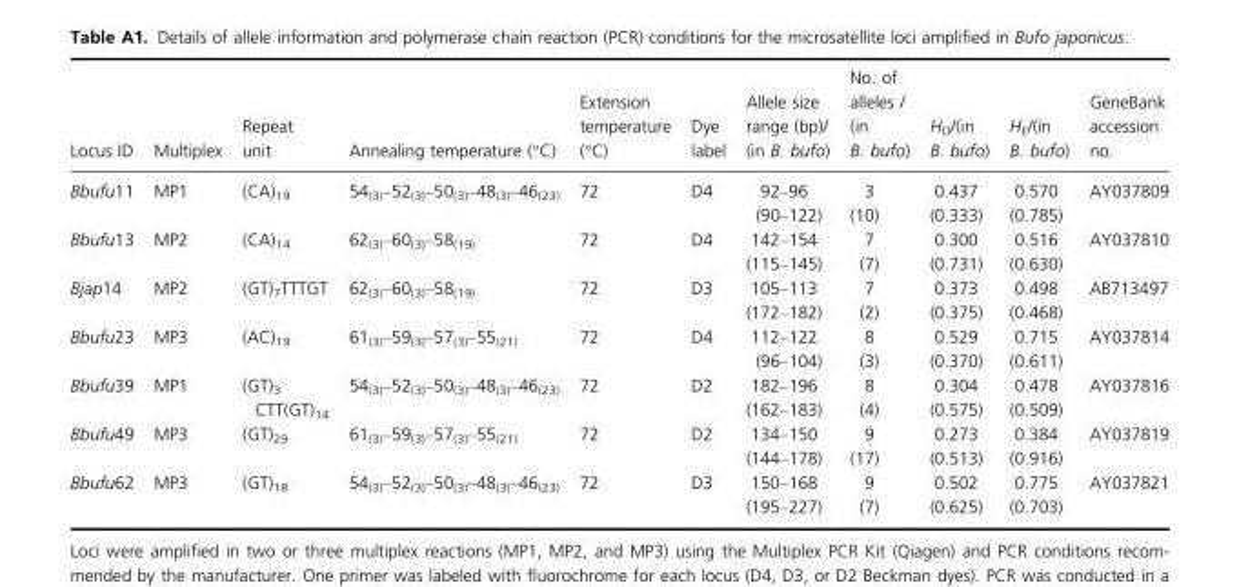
<table><thead><tr><td>Locus ID</td><td>Multiplex</td><td>Repeat unit</td><td>Annealing temperature (°C)</td><td>Extension temperature (°C)</td><td>Dye label</td><td>Allele size range (bp)/ (in B. bufo)</td><td>No. of alleles / (in B. bufo)</td><td>H<sub>O</sub>/(in B. bufo)</td><td>H<sub>E</sub>/(in B. bufo)</td><td>GeneBank accession no.</td></tr></thead><tbody><tr><td rowspan="2">Bbufu11</td><td rowspan="2">MP1</td><td rowspan="2">(CA)<sub>19</sub></td><td rowspan="2">54<sub>(3)</sub>–52<sub>(3)</sub>–50<sub>(3)</sub>–48<sub>(3)</sub>–46<sub>(23)</sub></td><td rowspan="2">72</td><td rowspan="2">D4</td><td>92–96</td><td>3</td><td>0.437</td><td>0.570</td><td rowspan="2">AY037809</td></tr><tr><td>(90–122)</td><td>(10)</td><td>(0.333)</td><td>(0.785)</td></tr><tr><td rowspan="2">Bbufu13</td><td rowspan="2">MP2</td><td rowspan="2">(CA)<sub>14</sub></td><td rowspan="2">62<sub>(3)</sub>–60<sub>(3)</sub>–58<sub>(19)</sub></td><td rowspan="2">72</td><td rowspan="2">D4</td><td>142–154</td><td>7</td><td>0.300</td><td>0.516</td><td rowspan="2">AY037810</td></tr><tr><td>(115–145)</td><td>(7)</td><td>(0.731)</td><td>(0.630)</td></tr><tr><td rowspan="2">Bjap14</td><td rowspan="2">MP2</td><td rowspan="2">(GT)<sub>7</sub>TTTGT</td><td rowspan="2">62<sub>(3)</sub>–60<sub>(3)</sub>–58<sub>(19)</sub></td><td rowspan="2">72</td><td rowspan="2">D3</td><td>105–113</td><td>7</td><td>0.373</td><td>0.498</td><td rowspan="2">AB713497</td></tr><tr><td>(172–182)</td><td>(2)</td><td>(0.375)</td><td>(0.468)</td></tr><tr><td rowspan="2">Bbufu23</td><td rowspan="2">MP3</td><td rowspan="2">(AC)<sub>19</sub></td><td rowspan="2">61<sub>(3)</sub>–59<sub>(3)</sub>–57<sub>(3)</sub>–55<sub>(21)</sub></td><td rowspan="2">72</td><td rowspan="2">D4</td><td>112–122</td><td>8</td><td>0.529</td><td>0.715</td><td rowspan="2">AY037814</td></tr><tr><td>(96–104)</td><td>(3)</td><td>(0.370)</td><td>(0.611)</td></tr><tr><td rowspan="2">Bbufu39</td><td rowspan="2">MP1</td><td rowspan="2">(GT)<sub>3</sub> CTT(GT)<sub>14</sub></td><td rowspan="2">54<sub>(3)</sub>–52<sub>(3)</sub>–50<sub>(3)</sub>–48<sub>(3)</sub>–46<sub>(23)</sub></td><td rowspan="2">72</td><td rowspan="2">D2</td><td>182–196</td><td>8</td><td>0.304</td><td>0.478</td><td rowspan="2">AY037816</td></tr><tr><td>(162–183)</td><td>(4)</td><td>(0.575)</td><td>(0.509)</td></tr><tr><td rowspan="2">Bbufu49</td><td rowspan="2">MP3</td><td rowspan="2">(GT)<sub>29</sub></td><td rowspan="2">61<sub>(3)</sub>–59<sub>(3)</sub>–57<sub>(3)</sub>–55<sub>(21)</sub></td><td rowspan="2">72</td><td rowspan="2">D2</td><td>134–150</td><td>9</td><td>0.273</td><td>0.384</td><td rowspan="2">AY037819</td></tr><tr><td>(144–178)</td><td>(17)</td><td>(0.513)</td><td>(0.916)</td></tr><tr><td rowspan="2">Bbufu62</td><td rowspan="2">MP3</td><td rowspan="2">(GT)<sub>18</sub></td><td rowspan="2">54<sub>(3)</sub>–52<sub>(3)</sub>–50<sub>(3)</sub>–48<sub>(3)</sub>–46<sub>(23)</sub></td><td rowspan="2">72</td><td rowspan="2">D3</td><td>150–168</td><td>9</td><td>0.502</td><td>0.775</td><td rowspan="2">AY037821</td></tr><tr><td>(195–227)</td><td>(7)</td><td>(0.625)</td><td>(0.703)</td></tr></tbody></table>